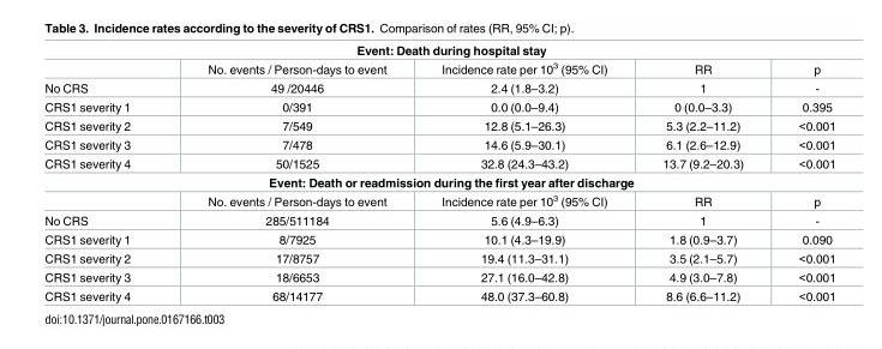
<table><tbody><tr><td colspan="5">Event: Death during hospital stay</td></tr><tr><td></td><td>No. events / Person-days to event</td><td>Incidence rate per 10<sup>3</sup> (95% CI)</td><td>RR</td><td>p</td></tr><tr><td>No CRS</td><td>49 /20446</td><td>2.4 (1.8–3.2)</td><td>1</td><td>-</td></tr><tr><td>CRS1 severity 1</td><td>0/391</td><td>0.0 (0.0–9.4)</td><td>0 (0.0–3.3)</td><td>0.395</td></tr><tr><td>CRS1 severity 2</td><td>7/549</td><td>12.8 (5.1–26.3)</td><td>5.3 (2.2–11.2)</td><td>&lt;0.001</td></tr><tr><td>CRS1 severity 3</td><td>7/478</td><td>14.6 (5.9–30.1)</td><td>6.1 (2.6–12.9)</td><td>&lt;0.001</td></tr><tr><td>CRS1 severity 4</td><td>50/1525</td><td>32.8 (24.3–43.2)</td><td>13.7 (9.2–20.3)</td><td>&lt;0.001</td></tr><tr><td colspan="5">Event: Death or readmission during the first year after discharge</td></tr><tr><td></td><td>No. events / Person-days to event</td><td>Incidence rate per 10<sup>3</sup> (95% CI)</td><td>RR</td><td>p</td></tr><tr><td>No CRS</td><td>285/511184</td><td>5.6 (4.9–6.3)</td><td>1</td><td>-</td></tr><tr><td>CRS1 severity 1</td><td>8/7925</td><td>10.1 (4.3–19.9)</td><td>1.8 (0.9–3.7)</td><td>0.090</td></tr><tr><td>CRS1 severity 2</td><td>17/8757</td><td>19.4 (11.3–31.1)</td><td>3.5 (2.1–5.7)</td><td>&lt;0.001</td></tr><tr><td>CRS1 severity 3</td><td>18/6653</td><td>27.1 (16.0–42.8)</td><td>4.9 (3.0–7.8)</td><td>&lt;0.001</td></tr><tr><td>CRS1 severity 4</td><td>68/14177</td><td>48.0 (37.3–60.8)</td><td>8.6 (6.6–11.2)</td><td>&lt;0.001</td></tr></tbody></table>